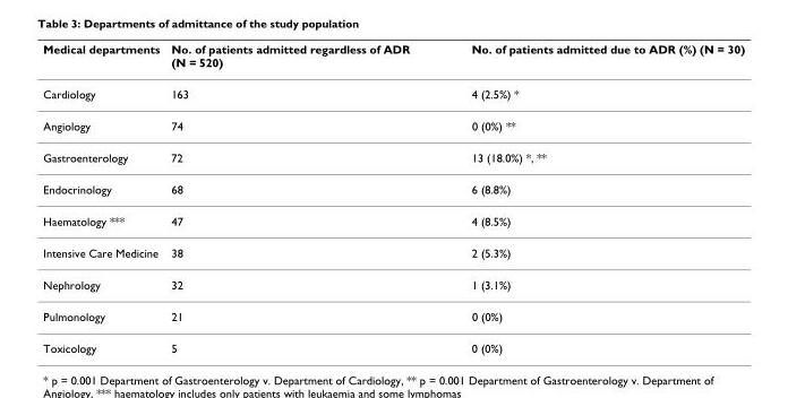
<table><thead><tr><td>Medical departments</td><td>No. of patients admitted regardless of ADR (N = 520)</td><td>No. of patients admitted due to ADR (%) (N = 30)</td></tr></thead><tbody><tr><td>Cardiology</td><td>163</td><td>4 (2.5%) *</td></tr><tr><td>Angiology</td><td>74</td><td>0 (0%) **</td></tr><tr><td>Gastroenterology</td><td>72</td><td>13 (18.0%) *, **</td></tr><tr><td>Endocrinology</td><td>68</td><td>6 (8.8%)</td></tr><tr><td>Haematology ***</td><td>47</td><td>4 (8.5%)</td></tr><tr><td>Intensive Care Medicine</td><td>38</td><td>2 (5.3%)</td></tr><tr><td>Nephrology</td><td>32</td><td>1 (3.1%)</td></tr><tr><td>Pulmonology</td><td>21</td><td>0 (0%)</td></tr><tr><td>Toxicology</td><td>5</td><td>0 (0%)</td></tr></tbody></table>